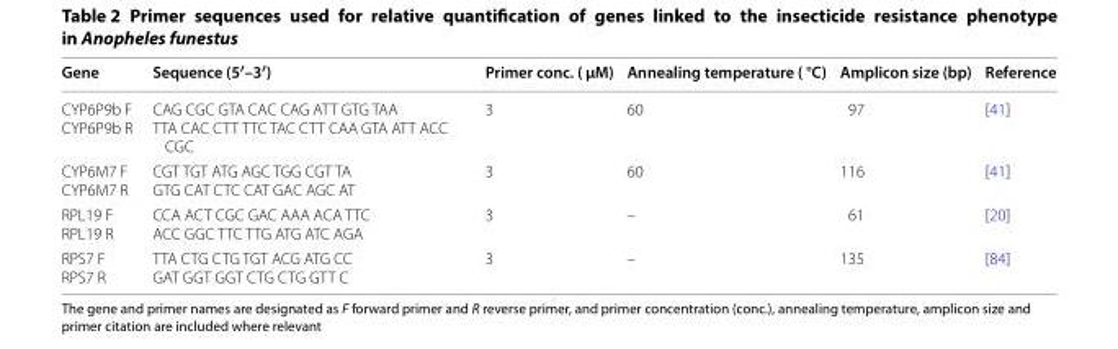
<table><thead><tr><td>Gene</td><td>Sequence (5′–3′)</td><td>Primer conc. ( μM)</td><td>Annealing temperature ( °C)</td><td>Amplicon size (bp)</td><td>Reference</td></tr></thead><tbody><tr><td>CYP6P9b F CYP6P9b R</td><td>CAG CGC GTA CAC CAG ATT GTG TAA TTA CAC CTT TTC TAC CTT CAA GTA ATT ACC CGC</td><td>3</td><td>60</td><td>97</td><td>[41]</td></tr><tr><td>CYP6M7 F CYP6M7 R</td><td>CGT TGT ATG AGC TGG CGT TA GTG CAT CTC CAT GAC AGC AT</td><td>3</td><td>60</td><td>116</td><td>[41]</td></tr><tr><td>RPL19 F RPL19 R</td><td>CCA ACT CGC GAC AAA ACA TTC ACC GGC TTC TTG ATG ATC AGA</td><td>3</td><td>–</td><td>61</td><td>[20]</td></tr><tr><td>RPS7 F RPS7 R</td><td>TTA CTG CTG TGT ACG ATG CC GAT GGT GGT CTG CTG GTT C</td><td>3</td><td>–</td><td>135</td><td>[84]</td></tr></tbody></table>